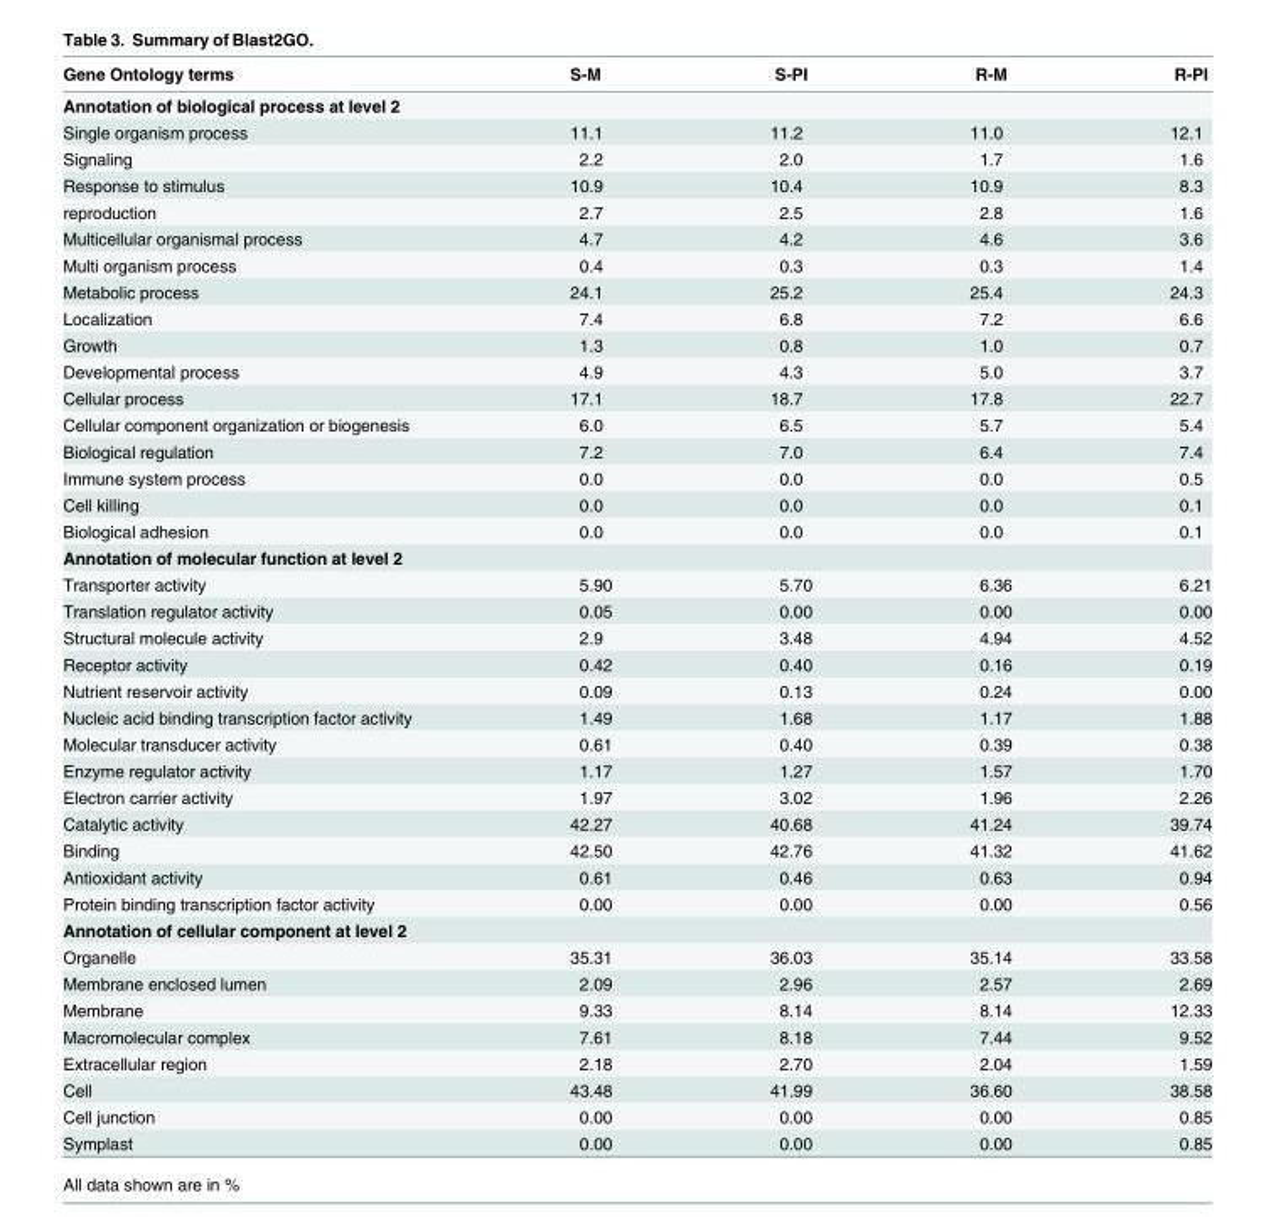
<table><thead><tr><td>Gene Ontology terms</td><td>S-M</td><td>S-PI</td><td>R-M</td><td>R-PI</td></tr></thead><tbody><tr><td colspan="5">Annotation of biological process at level 2</td></tr><tr><td>Single organism process</td><td>11.1</td><td>11.2</td><td>11.0</td><td>12.1</td></tr><tr><td>Signaling</td><td>2.2</td><td>2.0</td><td>1.7</td><td>1.6</td></tr><tr><td>Response to stimulus</td><td>10.9</td><td>10.4</td><td>10.9</td><td>8.3</td></tr><tr><td>reproduction</td><td>2.7</td><td>2.5</td><td>2.8</td><td>1.6</td></tr><tr><td>Multicellular organismal process</td><td>4.7</td><td>4.2</td><td>4.6</td><td>3.6</td></tr><tr><td>Multi organism process</td><td>0.4</td><td>0.3</td><td>0.3</td><td>1.4</td></tr><tr><td>Metabolic process</td><td>24.1</td><td>25.2</td><td>25.4</td><td>24.3</td></tr><tr><td>Localization</td><td>7.4</td><td>6.8</td><td>7.2</td><td>6.6</td></tr><tr><td>Growth</td><td>1.3</td><td>0.8</td><td>1.0</td><td>0.7</td></tr><tr><td>Developmental process</td><td>4.9</td><td>4.3</td><td>5.0</td><td>3.7</td></tr><tr><td>Cellular process</td><td>17.1</td><td>18.7</td><td>17.8</td><td>22.7</td></tr><tr><td>Cellular component organization or biogenesis</td><td>6.0</td><td>6.5</td><td>5.7</td><td>5.4</td></tr><tr><td>Biological regulation</td><td>7.2</td><td>7.0</td><td>6.4</td><td>7.4</td></tr><tr><td>Immune system process</td><td>0.0</td><td>0.0</td><td>0.0</td><td>0.5</td></tr><tr><td>Cell killing</td><td>0.0</td><td>0.0</td><td>0.0</td><td>0.1</td></tr><tr><td>Biological adhesion</td><td>0.0</td><td>0.0</td><td>0.0</td><td>0.1</td></tr><tr><td colspan="5">Annotation of molecular function at level 2</td></tr><tr><td>Transporter activity</td><td>5.90</td><td>5.70</td><td>6.36</td><td>6.21</td></tr><tr><td>Translation regulator activity</td><td>0.05</td><td>0.00</td><td>0.00</td><td>0.00</td></tr><tr><td>Structural molecule activity</td><td>2.9</td><td>3.48</td><td>4.94</td><td>4.52</td></tr><tr><td>Receptor activity</td><td>0.42</td><td>0.40</td><td>0.16</td><td>0.19</td></tr><tr><td>Nutrient reservoir activity</td><td>0.09</td><td>0.13</td><td>0.24</td><td>0.00</td></tr><tr><td>Nucleic acid binding transcription factor activity</td><td>1.49</td><td>1.68</td><td>1.17</td><td>1.88</td></tr><tr><td>Molecular transducer activity</td><td>0.61</td><td>0.40</td><td>0.39</td><td>0.38</td></tr><tr><td>Enzyme regulator activity</td><td>1.17</td><td>1.27</td><td>1.57</td><td>1.70</td></tr><tr><td>Electron carrier activity</td><td>1.97</td><td>3.02</td><td>1.96</td><td>2.26</td></tr><tr><td>Catalytic activity</td><td>42.27</td><td>40.68</td><td>41.24</td><td>39.74</td></tr><tr><td>Binding</td><td>42.50</td><td>42.76</td><td>41.32</td><td>41.62</td></tr><tr><td>Antioxidant activity</td><td>0.61</td><td>0.46</td><td>0.63</td><td>0.94</td></tr><tr><td>Protein binding transcription factor activity</td><td>0.00</td><td>0.00</td><td>0.00</td><td>0.56</td></tr><tr><td colspan="5">Annotation of cellular component at level 2</td></tr><tr><td>Organelle</td><td>35.31</td><td>36.03</td><td>35.14</td><td>33.58</td></tr><tr><td>Membrane enclosed lumen</td><td>2.09</td><td>2.96</td><td>2.57</td><td>2.69</td></tr><tr><td>Membrane</td><td>9.33</td><td>8.14</td><td>8.14</td><td>12.33</td></tr><tr><td>Macromolecular complex</td><td>7.61</td><td>8.18</td><td>7.44</td><td>9.52</td></tr><tr><td>Extracellular region</td><td>2.18</td><td>2.70</td><td>2.04</td><td>1.59</td></tr><tr><td>Cell</td><td>43.48</td><td>41.99</td><td>36.60</td><td>38.58</td></tr><tr><td>Cell junction</td><td>0.00</td><td>0.00</td><td>0.00</td><td>0.85</td></tr><tr><td>Symplast</td><td>0.00</td><td>0.00</td><td>0.00</td><td>0.85</td></tr></tbody></table>